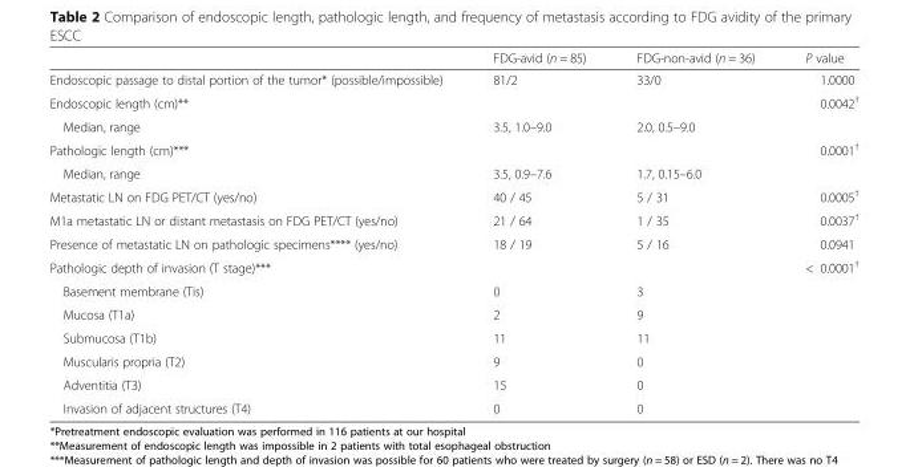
<table><thead><tr><td></td><td>FDG-avid (n = 85)</td><td>FDG-non-avid (n = 36)</td><td>P value</td></tr></thead><tbody><tr><td>Endoscopic passage to distal portion of the tumor* (possible/impossible)</td><td>81/2</td><td>33/0</td><td>1.0000</td></tr><tr><td colspan="3">Endoscopic length (cm)**</td><td>0.0042<sup>†</sup></td></tr><tr><td>Median, range</td><td>3.5, 1.0–9.0</td><td>2.0, 0.5–9.0</td><td></td></tr><tr><td colspan="3">Pathologic length (cm)***</td><td>0.0001<sup>†</sup></td></tr><tr><td>Median, range</td><td>3.5, 0.9–7.6</td><td>1.7, 0.15–6.0</td><td></td></tr><tr><td>Metastatic LN on FDG PET/CT (yes/no)</td><td>40 / 45</td><td>5 / 31</td><td>0.0005<sup>†</sup></td></tr><tr><td>M1a metastatic LN or distant metastasis on FDG PET/CT (yes/no)</td><td>21 / 64</td><td>1 / 35</td><td>0.0037<sup>†</sup></td></tr><tr><td>Presence of metastatic LN on pathologic specimens**** (yes/no)</td><td>18 / 19</td><td>5 / 16</td><td>0.0941</td></tr><tr><td colspan="3">Pathologic depth of invasion (T stage)***</td><td>&lt; 0.0001<sup>†</sup></td></tr><tr><td>Basement membrane (Tis)</td><td>0</td><td>3</td><td></td></tr><tr><td>Mucosa (T1a)</td><td>2</td><td>9</td><td></td></tr><tr><td>Submucosa (T1b)</td><td>11</td><td>11</td><td></td></tr><tr><td>Muscularis propria (T2)</td><td>9</td><td>0</td><td></td></tr><tr><td>Adventitia (T3)</td><td>15</td><td>0</td><td></td></tr><tr><td>Invasion of adjacent structures (T4)</td><td>0</td><td>0</td><td></td></tr></tbody></table>